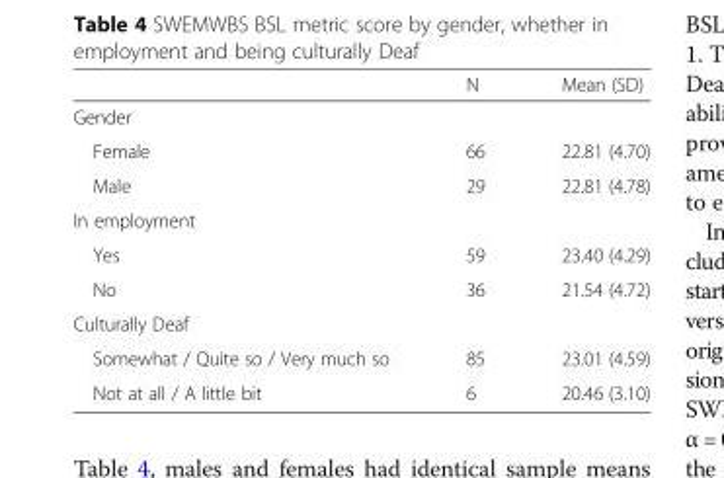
<table><thead><tr><td></td><td>N</td><td>Mean (SD)</td></tr></thead><tbody><tr><td colspan="3">Gender</td></tr><tr><td>Female</td><td>66</td><td>22.81 (4.70)</td></tr><tr><td>Male</td><td>29</td><td>22.81 (4.78)</td></tr><tr><td colspan="3">In employment</td></tr><tr><td>Yes</td><td>59</td><td>23.40 (4.29)</td></tr><tr><td>No</td><td>36</td><td>21.54 (4.72)</td></tr><tr><td colspan="3">Culturally Deaf</td></tr><tr><td>Somewhat / Quite so / Very much so</td><td>85</td><td>23.01 (4.59)</td></tr><tr><td>Not at all / A little bit</td><td>6</td><td>20.46 (3.10)</td></tr></tbody></table>